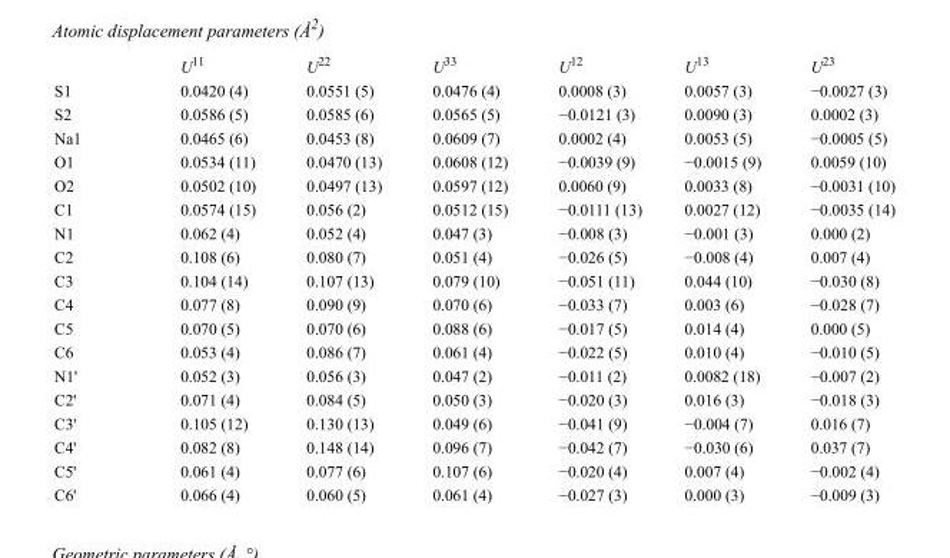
<table><thead><tr><td></td><td>U<sup>11</sup></td><td>U<sup>22</sup></td><td>U<sup>33</sup></td><td>U<sup>12</sup></td><td>U<sup>13</sup></td><td>U<sup>23</sup></td></tr></thead><tbody><tr><td>S1</td><td>0.0420 (4)</td><td>0.0551 (5)</td><td>0.0476 (4)</td><td>0.0008 (3)</td><td>0.0057 (3)</td><td>−0.0027 (3)</td></tr><tr><td>S2</td><td>0.0586 (5)</td><td>0.0585 (6)</td><td>0.0565 (5)</td><td>−0.0121 (3)</td><td>0.0090 (3)</td><td>0.0002 (3)</td></tr><tr><td>Na1</td><td>0.0465 (6)</td><td>0.0453 (8)</td><td>0.0609 (7)</td><td>0.0002 (4)</td><td>0.0053 (5)</td><td>−0.0005 (5)</td></tr><tr><td>O1</td><td>0.0534 (11)</td><td>0.0470 (13)</td><td>0.0608 (12)</td><td>−0.0039 (9)</td><td>−0.0015 (9)</td><td>0.0059 (10)</td></tr><tr><td>O2</td><td>0.0502 (10)</td><td>0.0497 (13)</td><td>0.0597 (12)</td><td>0.0060 (9)</td><td>0.0033 (8)</td><td>−0.0031 (10)</td></tr><tr><td>C1</td><td>0.0574 (15)</td><td>0.056 (2)</td><td>0.0512 (15)</td><td>−0.0111 (13)</td><td>0.0027 (12)</td><td>−0.0035 (14)</td></tr><tr><td>N1</td><td>0.062 (4)</td><td>0.052 (4)</td><td>0.047 (3)</td><td>−0.008 (3)</td><td>−0.001 (3)</td><td>0.000 (2)</td></tr><tr><td>C2</td><td>0.108 (6)</td><td>0.080 (7)</td><td>0.051 (4)</td><td>−0.026 (5)</td><td>−0.008 (4)</td><td>0.007 (4)</td></tr><tr><td>C3</td><td>0.104 (14)</td><td>0.107 (13)</td><td>0.079 (10)</td><td>−0.051 (11)</td><td>0.044 (10)</td><td>−0.030 (8)</td></tr><tr><td>C4</td><td>0.077 (8)</td><td>0.090 (9)</td><td>0.070 (6)</td><td>−0.033 (7)</td><td>0.003 (6)</td><td>−0.028 (7)</td></tr><tr><td>C5</td><td>0.070 (5)</td><td>0.070 (6)</td><td>0.088 (6)</td><td>−0.017 (5)</td><td>0.014 (4)</td><td>0.000 (5)</td></tr><tr><td>C6</td><td>0.053 (4)</td><td>0.086 (7)</td><td>0.061 (4)</td><td>−0.022 (5)</td><td>0.010 (4)</td><td>−0.010 (5)</td></tr><tr><td>N1&#x27;</td><td>0.052 (3)</td><td>0.056 (3)</td><td>0.047 (2)</td><td>−0.011 (2)</td><td>0.0082 (18)</td><td>−0.007 (2)</td></tr><tr><td>C2&#x27;</td><td>0.071 (4)</td><td>0.084 (5)</td><td>0.050 (3)</td><td>−0.020 (3)</td><td>0.016 (3)</td><td>−0.018 (3)</td></tr><tr><td>C3&#x27;</td><td>0.105 (12)</td><td>0.130 (13)</td><td>0.049 (6)</td><td>−0.041 (9)</td><td>−0.004 (7)</td><td>0.016 (7)</td></tr><tr><td>C4&#x27;</td><td>0.082 (8)</td><td>0.148 (14)</td><td>0.096 (7)</td><td>−0.042 (7)</td><td>−0.030 (6)</td><td>0.037 (7)</td></tr><tr><td>C5&#x27;</td><td>0.061 (4)</td><td>0.077 (6)</td><td>0.107 (6)</td><td>−0.020 (4)</td><td>0.007 (4)</td><td>−0.002 (4)</td></tr><tr><td>C6&#x27;</td><td>0.066 (4)</td><td>0.060 (5)</td><td>0.061 (4)</td><td>−0.027 (3)</td><td>0.000 (3)</td><td>−0.009 (3)</td></tr></tbody></table>